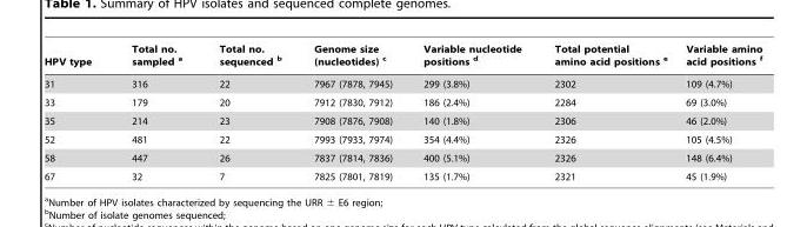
<table><thead><tr><td>HPV type</td><td>Total no. sampled a</td><td>Total no. sequenced b</td><td>Genome size (nucleotides) c</td><td>Variable nucleotide positions d</td><td>Total potential amino acid positions e</td><td>Variable amino acid positions f</td></tr></thead><tbody><tr><td>31</td><td>316</td><td>22</td><td>7967 (7878, 7945)</td><td>299 (3.8%)</td><td>2302</td><td>109 (4.7%)</td></tr><tr><td>33</td><td>179</td><td>20</td><td>7912 (7830, 7912)</td><td>186 (2.4%)</td><td>2284</td><td>69 (3.0%)</td></tr><tr><td>35</td><td>214</td><td>23</td><td>7908 (7876, 7908)</td><td>140 (1.8%)</td><td>2306</td><td>46 (2.0%)</td></tr><tr><td>52</td><td>481</td><td>22</td><td>7993 (7933, 7974)</td><td>354 (4.4%)</td><td>2326</td><td>105 (4.5%)</td></tr><tr><td>58</td><td>447</td><td>26</td><td>7837 (7814, 7836)</td><td>400 (5.1%)</td><td>2326</td><td>148 (6.4%)</td></tr><tr><td>67</td><td>32</td><td>7</td><td>7825 (7801, 7819)</td><td>135 (1.7%)</td><td>2321</td><td>45 (1.9%)</td></tr></tbody></table>